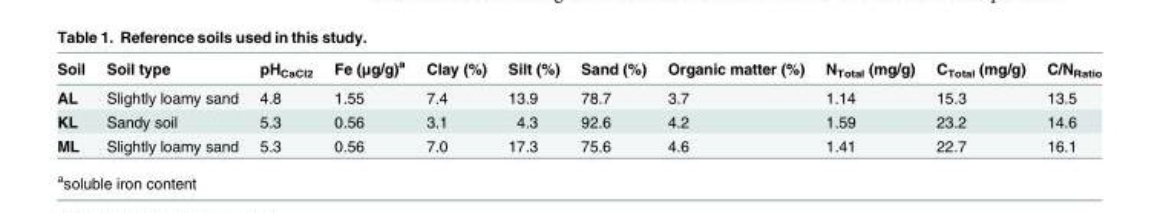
<table><thead><tr><td>Soil</td><td>Soil type</td><td>pH<sub>CaCl2</sub></td><td>Fe (μg/g)<sup>a</sup></td><td>Clay (%)</td><td>Silt (%)</td><td>Sand (%)</td><td>Organic matter (%)</td><td>N<sub>Total</sub> (mg/g)</td><td>C<sub>Total</sub> (mg/g)</td><td>C/N<sub>Ratio</sub></td></tr></thead><tbody><tr><td>AL</td><td>Slightly loamy sand</td><td>4.8</td><td>1.55</td><td>7.4</td><td>13.9</td><td>78.7</td><td>3.7</td><td>1.14</td><td>15.3</td><td>13.5</td></tr><tr><td>KL</td><td>Sandy soil</td><td>5.3</td><td>0.56</td><td>3.1</td><td>4.3</td><td>92.6</td><td>4.2</td><td>1.59</td><td>23.2</td><td>14.6</td></tr><tr><td>ML</td><td>Slightly loamy sand</td><td>5.3</td><td>0.56</td><td>7.0</td><td>17.3</td><td>75.6</td><td>4.6</td><td>1.41</td><td>22.7</td><td>16.1</td></tr></tbody></table>